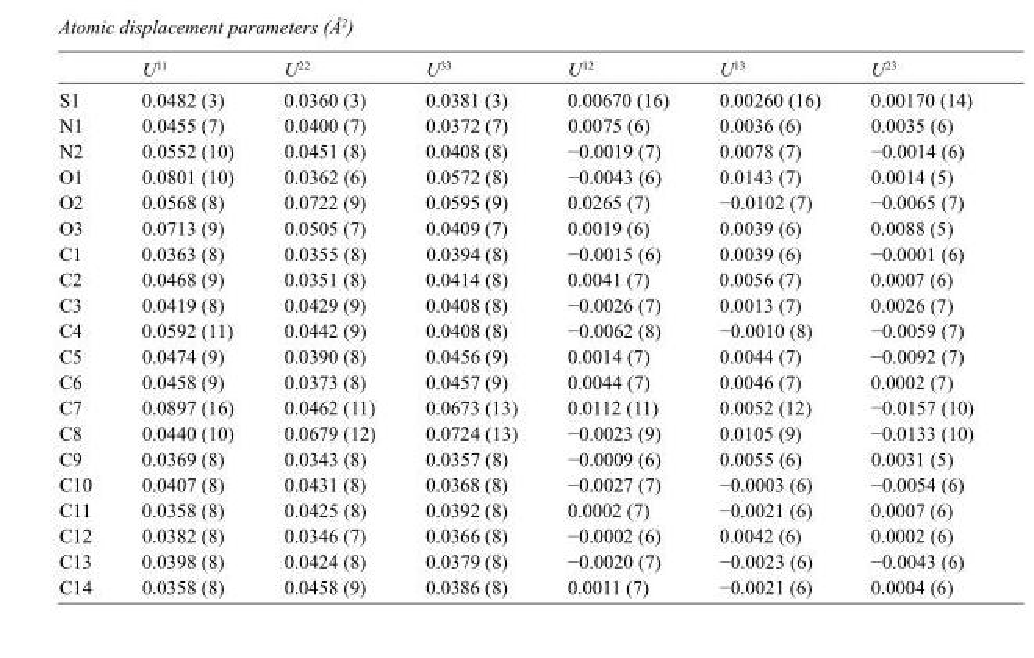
<table><thead><tr><td></td><td>U<sup>11</sup></td><td>U<sup>22</sup></td><td>U<sup>33</sup></td><td>U<sup>12</sup></td><td>U<sup>13</sup></td><td>U<sup>23</sup></td></tr></thead><tbody><tr><td>S1</td><td>0.0482 (3)</td><td>0.0360 (3)</td><td>0.0381 (3)</td><td>0.00670 (16)</td><td>0.00260 (16)</td><td>0.00170 (14)</td></tr><tr><td>N1</td><td>0.0455 (7)</td><td>0.0400 (7)</td><td>0.0372 (7)</td><td>0.0075 (6)</td><td>0.0036 (6)</td><td>0.0035 (6)</td></tr><tr><td>N2</td><td>0.0552 (10)</td><td>0.0451 (8)</td><td>0.0408 (8)</td><td>−0.0019 (7)</td><td>0.0078 (7)</td><td>−0.0014 (6)</td></tr><tr><td>O1</td><td>0.0801 (10)</td><td>0.0362 (6)</td><td>0.0572 (8)</td><td>−0.0043 (6)</td><td>0.0143 (7)</td><td>0.0014 (5)</td></tr><tr><td>O2</td><td>0.0568 (8)</td><td>0.0722 (9)</td><td>0.0595 (9)</td><td>0.0265 (7)</td><td>−0.0102 (7)</td><td>−0.0065 (7)</td></tr><tr><td>O3</td><td>0.0713 (9)</td><td>0.0505 (7)</td><td>0.0409 (7)</td><td>0.0019 (6)</td><td>0.0039 (6)</td><td>0.0088 (5)</td></tr><tr><td>C1</td><td>0.0363 (8)</td><td>0.0355 (8)</td><td>0.0394 (8)</td><td>−0.0015 (6)</td><td>0.0039 (6)</td><td>−0.0001 (6)</td></tr><tr><td>C2</td><td>0.0468 (9)</td><td>0.0351 (8)</td><td>0.0414 (8)</td><td>0.0041 (7)</td><td>0.0056 (7)</td><td>0.0007 (6)</td></tr><tr><td>C3</td><td>0.0419 (8)</td><td>0.0429 (9)</td><td>0.0408 (8)</td><td>−0.0026 (7)</td><td>0.0013 (7)</td><td>0.0026 (7)</td></tr><tr><td>C4</td><td>0.0592 (11)</td><td>0.0442 (9)</td><td>0.0408 (8)</td><td>−0.0062 (8)</td><td>−0.0010 (8)</td><td>−0.0059 (7)</td></tr><tr><td>C5</td><td>0.0474 (9)</td><td>0.0390 (8)</td><td>0.0456 (9)</td><td>0.0014 (7)</td><td>0.0044 (7)</td><td>−0.0092 (7)</td></tr><tr><td>C6</td><td>0.0458 (9)</td><td>0.0373 (8)</td><td>0.0457 (9)</td><td>0.0044 (7)</td><td>0.0046 (7)</td><td>0.0002 (7)</td></tr><tr><td>C7</td><td>0.0897 (16)</td><td>0.0462 (11)</td><td>0.0673 (13)</td><td>0.0112 (11)</td><td>0.0052 (12)</td><td>−0.0157 (10)</td></tr><tr><td>C8</td><td>0.0440 (10)</td><td>0.0679 (12)</td><td>0.0724 (13)</td><td>−0.0023 (9)</td><td>0.0105 (9)</td><td>−0.0133 (10)</td></tr><tr><td>C9</td><td>0.0369 (8)</td><td>0.0343 (8)</td><td>0.0357 (8)</td><td>−0.0009 (6)</td><td>0.0055 (6)</td><td>0.0031 (5)</td></tr><tr><td>C10</td><td>0.0407 (8)</td><td>0.0431 (8)</td><td>0.0368 (8)</td><td>−0.0027 (7)</td><td>−0.0003 (6)</td><td>−0.0054 (6)</td></tr><tr><td>C11</td><td>0.0358 (8)</td><td>0.0425 (8)</td><td>0.0392 (8)</td><td>0.0002 (7)</td><td>−0.0021 (6)</td><td>0.0007 (6)</td></tr><tr><td>C12</td><td>0.0382 (8)</td><td>0.0346 (7)</td><td>0.0366 (8)</td><td>−0.0002 (6)</td><td>0.0042 (6)</td><td>0.0002 (6)</td></tr><tr><td>C13</td><td>0.0398 (8)</td><td>0.0424 (8)</td><td>0.0379 (8)</td><td>−0.0020 (7)</td><td>−0.0023 (6)</td><td>−0.0043 (6)</td></tr><tr><td>C14</td><td>0.0358 (8)</td><td>0.0458 (9)</td><td>0.0386 (8)</td><td>0.0011 (7)</td><td>−0.0021 (6)</td><td>0.0004 (6)</td></tr></tbody></table>